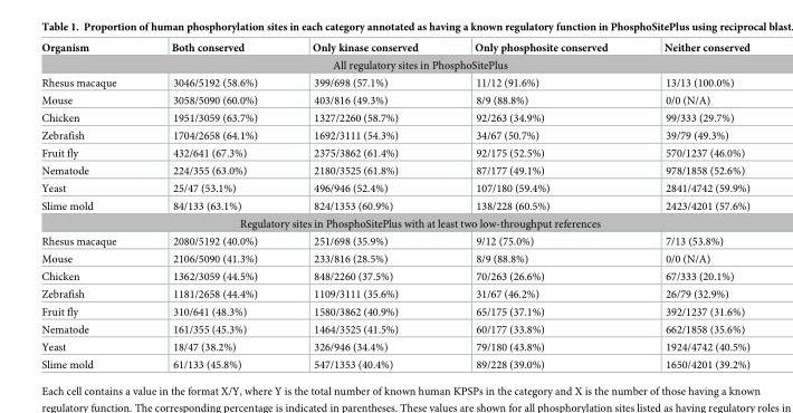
<table><thead><tr><td>Organism</td><td>Both conserved</td><td>Only kinase conserved</td><td>Only phosphosite conserved</td><td>Neither conserved</td></tr></thead><tbody><tr><td colspan="5">All regulatory sites in PhosphoSitePlus</td></tr><tr><td>Rhesus macaque</td><td>3046/5192 (58.6%)</td><td>399/698 (57.1%)</td><td>11/12 (91.6%)</td><td>13/13 (100.0%)</td></tr><tr><td>Mouse</td><td>3058/5090 (60.0%)</td><td>403/816 (49.3%)</td><td>8/9 (88.8%)</td><td>0/0 (N/A)</td></tr><tr><td>Chicken</td><td>1951/3059 (63.7%)</td><td>1327/2260 (58.7%)</td><td>92/263 (34.9%)</td><td>99/333 (29.7%)</td></tr><tr><td>Zebrafish</td><td>1704/2658 (64.1%)</td><td>1692/3111 (54.3%)</td><td>34/67 (50.7%)</td><td>39/79 (49.3%)</td></tr><tr><td>Fruit fly</td><td>432/641 (67.3%)</td><td>2375/3862 (61.4%)</td><td>92/175 (52.5%)</td><td>570/1237 (46.0%)</td></tr><tr><td>Nematode</td><td>224/355 (63.0%)</td><td>2180/3525 (61.8%)</td><td>87/177 (49.1%)</td><td>978/1858 (52.6%)</td></tr><tr><td>Yeast</td><td>25/47 (53.1%)</td><td>496/946 (52.4%)</td><td>107/180 (59.4%)</td><td>2841/4742 (59.9%)</td></tr><tr><td>Slime mold</td><td>84/133 (63.1%)</td><td>824/1353 (60.9%)</td><td>138/228 (60.5%)</td><td>2423/4201 (57.6%)</td></tr><tr><td colspan="5">Regulatory sites in PhosphoSitePlus with at least two low-throughput references</td></tr><tr><td>Rhesus macaque</td><td>2080/5192 (40.0%)</td><td>251/698 (35.9%)</td><td>9/12 (75.0%)</td><td>7/13 (53.8%)</td></tr><tr><td>Mouse</td><td>2106/5090 (41.3%)</td><td>233/816 (28.5%)</td><td>8/9 (88.8%)</td><td>0/0 (N/A)</td></tr><tr><td>Chicken</td><td>1362/3059 (44.5%)</td><td>848/2260 (37.5%)</td><td>70/263 (26.6%)</td><td>67/333 (20.1%)</td></tr><tr><td>Zebrafish</td><td>1181/2658 (44.4%)</td><td>1109/3111 (35.6%)</td><td>31/67 (46.2%)</td><td>26/79 (32.9%)</td></tr><tr><td>Fruit fly</td><td>310/641 (48.3%)</td><td>1580/3862 (40.9%)</td><td>65/175 (37.1%)</td><td>392/1237 (31.6%)</td></tr><tr><td>Nematode</td><td>161/355 (45.3%)</td><td>1464/3525 (41.5%)</td><td>60/177 (33.8%)</td><td>662/1858 (35.6%)</td></tr><tr><td>Yeast</td><td>18/47 (38.2%)</td><td>326/946 (34.4%)</td><td>79/180 (43.8%)</td><td>1924/4742 (40.5%)</td></tr><tr><td>Slime mold</td><td>61/133 (45.8%)</td><td>547/1353 (40.4%)</td><td>89/228 (39.0%)</td><td>1650/4201 (39.2%)</td></tr></tbody></table>